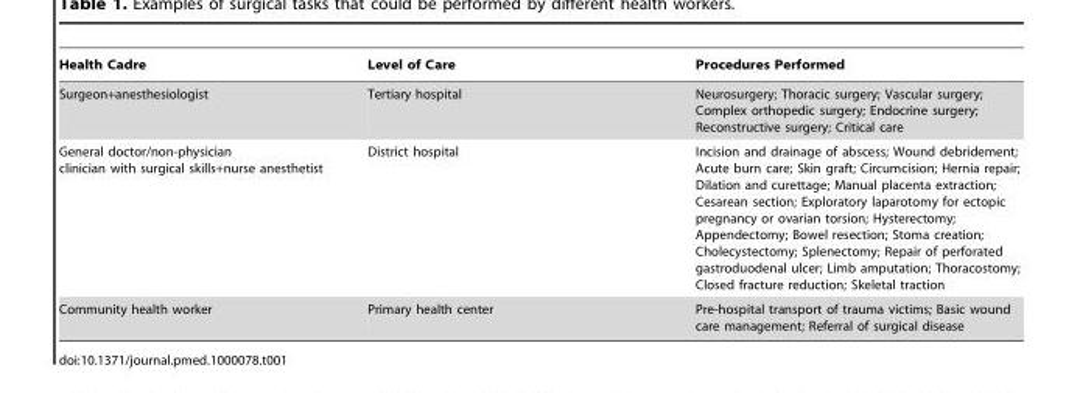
<table><thead><tr><td>Health Cadre</td><td>Level of Care</td><td>Procedures Performed</td></tr></thead><tbody><tr><td>Surgeon+anesthesiologist</td><td>Tertiary hospital</td><td>Neurosurgery; Thoracic surgery; Vascular surgery; Complex orthopedic surgery; Endocrine surgery; Reconstructive surgery; Critical care</td></tr><tr><td>General doctor/non-physician clinician with surgical skills+nurse anesthetist</td><td>District hospital</td><td>Incision and drainage of abscess; Wound debridement; Acute burn care; Skin graft; Circumcision; Hernia repair; Dilation and curettage; Manual placenta extraction; Cesarean section; Exploratory laparotomy for ectopic pregnancy or ovarian torsion; Hysterectomy; Appendectomy; Bowel resection; Stoma creation; Cholecystectomy; Splenectomy; Repair of perforated gastroduodenal ulcer; Limb amputation; Thoracostomy; Closed fracture reduction; Skeletal traction</td></tr><tr><td>Community health worker</td><td>Primary health center</td><td>Pre-hospital transport of trauma victims; Basic wound care management; Referral of surgical disease</td></tr></tbody></table>